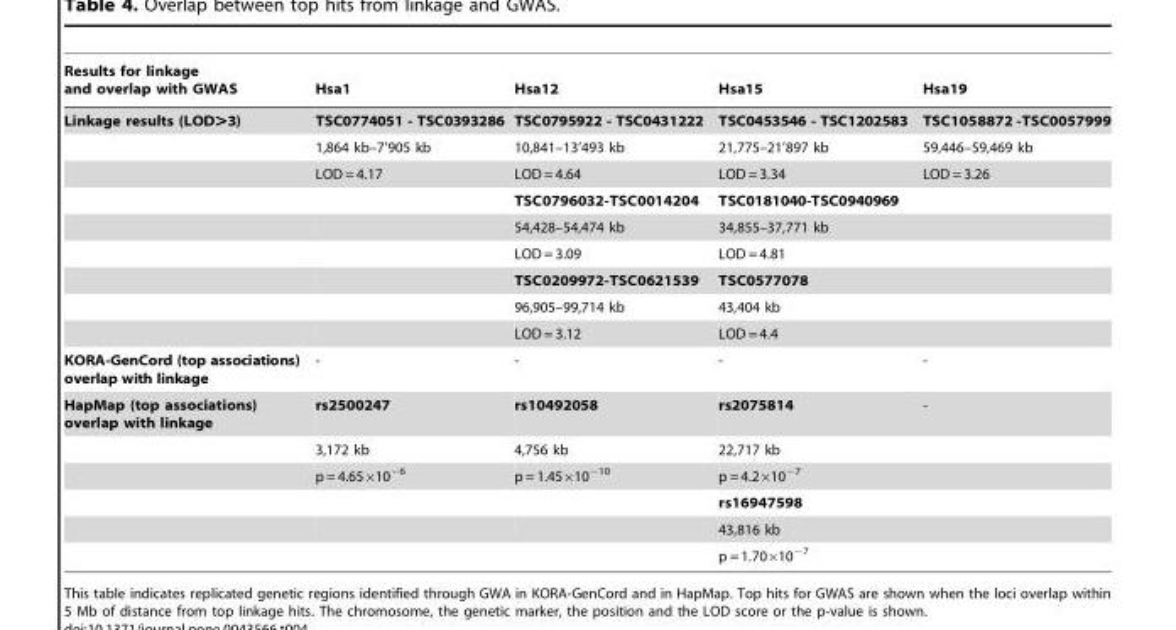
<table><thead><tr><td>Results for linkage and overlap with GWAS</td><td>Hsa1</td><td>Hsa12</td><td>Hsa15</td><td>Hsa19</td></tr></thead><tbody><tr><td rowspan="9">Linkage results (LOD&gt;3)</td><td>TSC0774051 - TSC0393286</td><td>TSC0795922 - TSC0431222</td><td>TSC0453546 - TSC1202583</td><td>TSC1058872 -TSC0057999</td></tr><tr><td>1,864 kb–7’905 kb</td><td>10,841–13’493 kb</td><td>21,775–21’897 kb</td><td>59,446–59,469 kb</td></tr><tr><td>LOD = 4.17</td><td>LOD = 4.64</td><td>LOD = 3.34</td><td>LOD = 3.26</td></tr><tr><td></td><td>TSC0796032-TSC0014204</td><td>TSC0181040-TSC0940969</td><td></td></tr><tr><td></td><td>54,428–54,474 kb</td><td>34,855–37,771 kb</td><td></td></tr><tr><td></td><td>LOD = 3.09</td><td>LOD = 4.81</td><td></td></tr><tr><td></td><td>TSC0209972-TSC0621539</td><td>TSC0577078</td><td></td></tr><tr><td></td><td>96,905–99,714 kb</td><td>43,404 kb</td><td></td></tr><tr><td></td><td>LOD = 3.12</td><td>LOD = 4.4</td><td></td></tr><tr><td>KORA-GenCord (top associations) overlap with linkage</td><td>-</td><td>-</td><td>-</td><td>-</td></tr><tr><td rowspan="6">HapMap (top associations) overlap with linkage</td><td>rs2500247</td><td>rs10492058</td><td>rs2075814</td><td>-</td></tr><tr><td>3,172 kb</td><td>4,756 kb</td><td>22,717 kb</td><td></td></tr><tr><td>p = 4.65×10<sup>−6</sup></td><td>p = 1.45×10<sup>−10</sup></td><td>p = 4.2×10<sup>−7</sup></td><td></td></tr><tr><td></td><td></td><td>rs16947598</td><td></td></tr><tr><td></td><td></td><td>43,816 kb</td><td></td></tr><tr><td></td><td></td><td>p = 1.70×10<sup>−7</sup></td><td></td></tr></tbody></table>